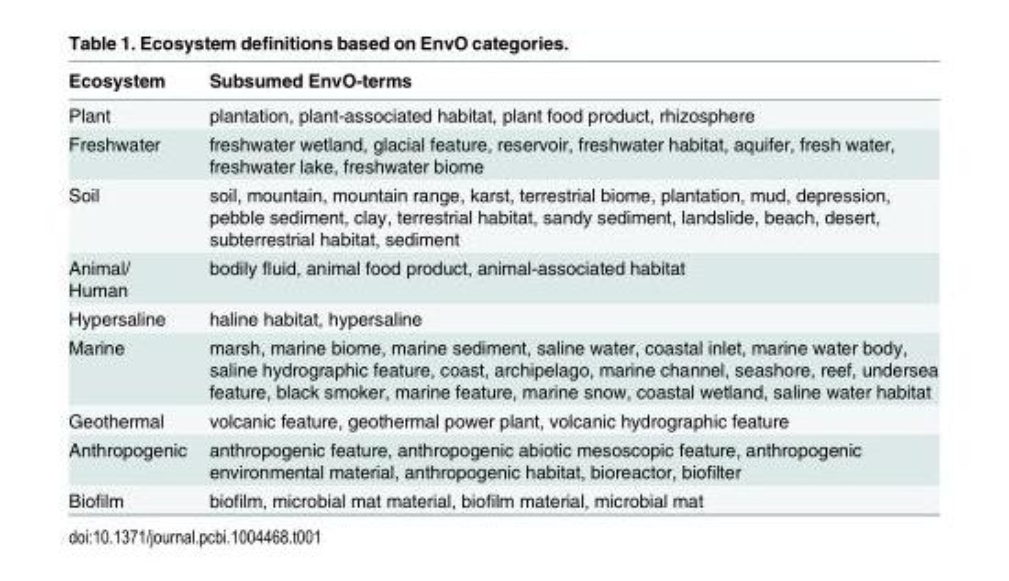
<table><thead><tr><td>Ecosystem</td><td>Subsumed EnvO-terms</td></tr></thead><tbody><tr><td>Plant</td><td>plantation, plant-associated habitat, plant food product, rhizosphere</td></tr><tr><td>Freshwater</td><td>freshwater wetland, glacial feature, reservoir, freshwater habitat, aquifer, fresh water, freshwater lake, freshwater biome</td></tr><tr><td>Soil</td><td>soil, mountain, mountain range, karst, terrestrial biome, plantation, mud, depression, pebble sediment, clay, terrestrial habitat, sandy sediment, landslide, beach, desert, subterrestrial habitat, sediment</td></tr><tr><td>Animal/ Human</td><td>bodily fluid, animal food product, animal-associated habitat</td></tr><tr><td>Hypersaline</td><td>haline habitat, hypersaline</td></tr><tr><td>Marine</td><td>marsh, marine biome, marine sediment, saline water, coastal inlet, marine water body, saline hydrographic feature, coast, archipelago, marine channel, seashore, reef, undersea feature, black smoker, marine feature, marine snow, coastal wetland, saline water habitat</td></tr><tr><td>Geothermal</td><td>volcanic feature, geothermal power plant, volcanic hydrographic feature</td></tr><tr><td>Anthropogenic</td><td>anthropogenic feature, anthropogenic abiotic mesoscopic feature, anthropogenic environmental material, anthropogenic habitat, bioreactor, biofilter</td></tr><tr><td>Biofilm</td><td>biofilm, microbial mat material, biofilm material, microbial mat</td></tr></tbody></table>